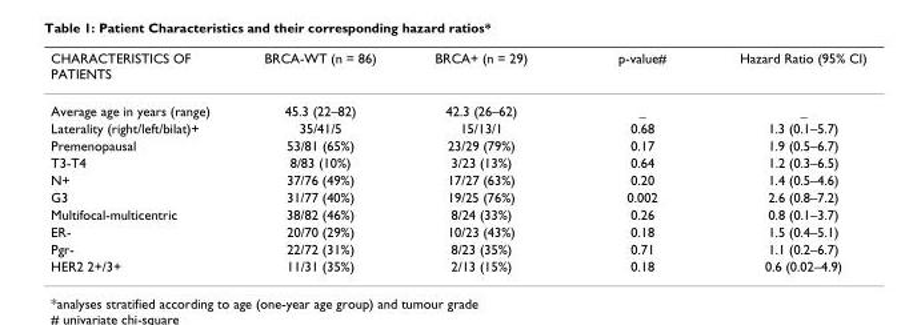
<table><thead><tr><td>CHARACTERISTICS OF PATIENTS</td><td>BRCA-WT (n = 86)</td><td>BRCA+ (n = 29)</td><td>p-value#</td><td>Hazard Ratio (95% CI)</td></tr></thead><tbody><tr><td>Average age in years (range)</td><td>45.3 (22–82)</td><td>42.3 (26–62)</td><td>_</td><td>_</td></tr><tr><td>Laterality (right/left/bilat)+</td><td>35/41/5</td><td>15/13/1</td><td>0.68</td><td>1.3 (0.1–5.7)</td></tr><tr><td>Premenopausal</td><td>53/81 (65%)</td><td>23/29 (79%)</td><td>0.17</td><td>1.9 (0.5–6.7)</td></tr><tr><td>T3-T4</td><td>8/83 (10%)</td><td>3/23 (13%)</td><td>0.64</td><td>1.2 (0.3–6.5)</td></tr><tr><td>N+</td><td>37/76 (49%)</td><td>17/27 (63%)</td><td>0.20</td><td>1.4 (0.5–4.6)</td></tr><tr><td>G3</td><td>31/77 (40%)</td><td>19/25 (76%)</td><td>0.002</td><td>2.6 (0.8–7.2)</td></tr><tr><td>Multifocal-multicentric</td><td>38/82 (46%)</td><td>8/24 (33%)</td><td>0.26</td><td>0.8 (0.1–3.7)</td></tr><tr><td>ER-</td><td>20/70 (29%)</td><td>10/23 (43%)</td><td>0.18</td><td>1.5 (0.4–5.1)</td></tr><tr><td>Pgr-</td><td>22/72 (31%)</td><td>8/23 (35%)</td><td>0.71</td><td>1.1 (0.2–6.7)</td></tr><tr><td>HER2 2+/3+</td><td>11/31 (35%)</td><td>2/13 (15%)</td><td>0.18</td><td>0.6 (0.02–4.9)</td></tr></tbody></table>